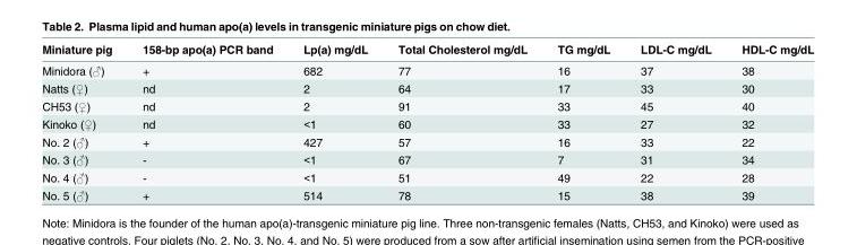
<table><thead><tr><td>Miniature pig</td><td>158-bp apo(a) PCR band</td><td>Lp(a) mg/dL</td><td>Total Cholesterol mg/dL</td><td>TG mg/dL</td><td>LDL-C mg/dL</td><td>HDL-C mg/dL</td></tr></thead><tbody><tr><td>Minidora (♂)</td><td>+</td><td>682</td><td>77</td><td>16</td><td>37</td><td>38</td></tr><tr><td>Natts (♀)</td><td>nd</td><td>2</td><td>64</td><td>17</td><td>33</td><td>30</td></tr><tr><td>CH53 (♀)</td><td>nd</td><td>2</td><td>91</td><td>33</td><td>45</td><td>40</td></tr><tr><td>Kinoko (♀)</td><td>nd</td><td>&lt;1</td><td>60</td><td>33</td><td>27</td><td>32</td></tr><tr><td>No. 2 (♂)</td><td>+</td><td>427</td><td>57</td><td>16</td><td>33</td><td>22</td></tr><tr><td>No. 3 (♂)</td><td>-</td><td>&lt;1</td><td>67</td><td>7</td><td>31</td><td>34</td></tr><tr><td>No. 4 (♂)</td><td>-</td><td>&lt;1</td><td>51</td><td>49</td><td>22</td><td>28</td></tr><tr><td>No. 5 (♂)</td><td>+</td><td>514</td><td>78</td><td>15</td><td>38</td><td>39</td></tr></tbody></table>